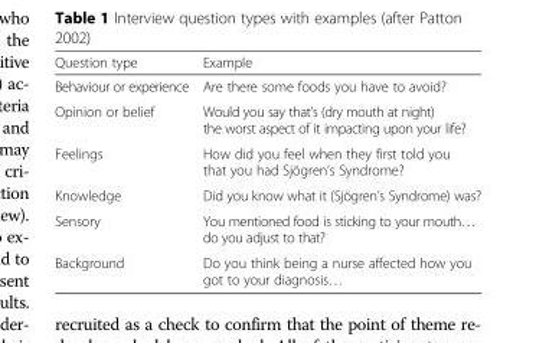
<table><thead><tr><td>Question type</td><td>Example</td></tr></thead><tbody><tr><td>Behaviour or experience</td><td>Are there some foods you have to avoid?</td></tr><tr><td>Opinion or belief</td><td>Would you say that’s (dry mouth at night) the worst aspect of it impacting upon your life?</td></tr><tr><td>Feelings</td><td>How did you feel when they first told you that you had Sjögren’s Syndrome?</td></tr><tr><td>Knowledge</td><td>Did you know what it (Sjögren’s Syndrome) was?</td></tr><tr><td>Sensory</td><td>You mentioned food is sticking to your mouth… do you adjust to that?</td></tr><tr><td>Background</td><td>Do you think being a nurse affected how you got to your diagnosis…</td></tr></tbody></table>